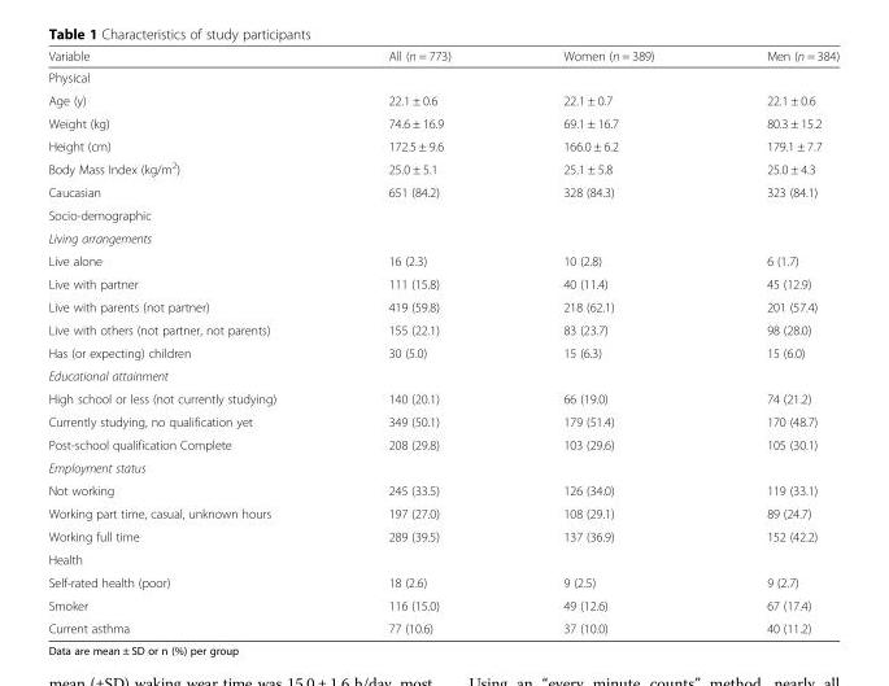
<table><thead><tr><td>Variable</td><td>All (n = 773)</td><td>Women (n = 389)</td><td>Men (n = 384)</td></tr></thead><tbody><tr><td colspan="4">Physical</td></tr><tr><td>Age (y)</td><td>22.1 ± 0.6</td><td>22.1 ± 0.7</td><td>22.1 ± 0.6</td></tr><tr><td>Weight (kg)</td><td>74.6 ± 16.9</td><td>69.1 ± 16.7</td><td>80.3 ± 15.2</td></tr><tr><td>Height (cm)</td><td>172.5 ± 9.6</td><td>166.0 ± 6.2</td><td>179.1 ± 7.7</td></tr><tr><td>Body Mass Index (kg/m<sup>2</sup>)</td><td>25.0 ± 5.1</td><td>25.1 ± 5.8</td><td>25.0 ± 4.3</td></tr><tr><td>Caucasian</td><td>651 (84.2)</td><td>328 (84.3)</td><td>323 (84.1)</td></tr><tr><td colspan="4">Socio-demographic</td></tr><tr><td colspan="4">Living arrangements</td></tr><tr><td>Live alone</td><td>16 (2.3)</td><td>10 (2.8)</td><td>6 (1.7)</td></tr><tr><td>Live with partner</td><td>111 (15.8)</td><td>40 (11.4)</td><td>45 (12.9)</td></tr><tr><td>Live with parents (not partner)</td><td>419 (59.8)</td><td>218 (62.1)</td><td>201 (57.4)</td></tr><tr><td>Live with others (not partner, not parents)</td><td>155 (22.1)</td><td>83 (23.7)</td><td>98 (28.0)</td></tr><tr><td>Has (or expecting) children</td><td>30 (5.0)</td><td>15 (6.3)</td><td>15 (6.0)</td></tr><tr><td colspan="4">Educational attainment</td></tr><tr><td>High school or less (not currently studying)</td><td>140 (20.1)</td><td>66 (19.0)</td><td>74 (21.2)</td></tr><tr><td>Currently studying, no qualification yet</td><td>349 (50.1)</td><td>179 (51.4)</td><td>170 (48.7)</td></tr><tr><td>Post-school qualification Complete</td><td>208 (29.8)</td><td>103 (29.6)</td><td>105 (30.1)</td></tr><tr><td colspan="4">Employment status</td></tr><tr><td>Not working</td><td>245 (33.5)</td><td>126 (34.0)</td><td>119 (33.1)</td></tr><tr><td>Working part time, casual, unknown hours</td><td>197 (27.0)</td><td>108 (29.1)</td><td>89 (24.7)</td></tr><tr><td>Working full time</td><td>289 (39.5)</td><td>137 (36.9)</td><td>152 (42.2)</td></tr><tr><td colspan="4">Health</td></tr><tr><td>Self-rated health (poor)</td><td>18 (2.6)</td><td>9 (2.5)</td><td>9 (2.7)</td></tr><tr><td>Smoker</td><td>116 (15.0)</td><td>49 (12.6)</td><td>67 (17.4)</td></tr><tr><td>Current asthma</td><td>77 (10.6)</td><td>37 (10.0)</td><td>40 (11.2)</td></tr></tbody></table>